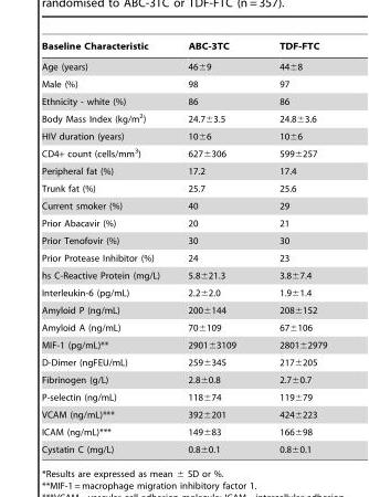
<table><thead><tr><td>Baseline Characteristic</td><td>ABC-3TC</td><td>TDF-FTC</td></tr></thead><tbody><tr><td>Age (years)</td><td>46±9</td><td>44±8</td></tr><tr><td>Male (%)</td><td>98</td><td>97</td></tr><tr><td>Ethnicity - white (%)</td><td>86</td><td>86</td></tr><tr><td>Body Mass Index (kg/m<sup>2</sup>)</td><td>24.7±3.5</td><td>24.8±3.6</td></tr><tr><td>HIV duration (years)</td><td>10±6</td><td>10±6</td></tr><tr><td>CD4+ count (cells/mm<sup>3</sup>)</td><td>627±306</td><td>599±257</td></tr><tr><td>Peripheral fat (%)</td><td>17.2</td><td>17.4</td></tr><tr><td>Trunk fat (%)</td><td>25.7</td><td>25.6</td></tr><tr><td>Current smoker (%)</td><td>40</td><td>29</td></tr><tr><td>Prior Abacavir (%)</td><td>20</td><td>21</td></tr><tr><td>Prior Tenofovir (%)</td><td>30</td><td>30</td></tr><tr><td>Prior Protease Inhibitor (%)</td><td>24</td><td>23</td></tr><tr><td>hs C-Reactive Protein (mg/L)</td><td>5.8±21.3</td><td>3.8±7.4</td></tr><tr><td>Interleukin-6 (pg/mL)</td><td>2.2±2.0</td><td>1.9±1.4</td></tr><tr><td>Amyloid P (ng/mL)</td><td>200±144</td><td>208±152</td></tr><tr><td>Amyloid A (ng/mL)</td><td>70±109</td><td>67±106</td></tr><tr><td>MIF-1 (pg/mL)**</td><td>2901±3109</td><td>2801±2979</td></tr><tr><td>D-Dimer (ngFEU/mL)</td><td>259±345</td><td>217±205</td></tr><tr><td>Fibrinogen (g/L)</td><td>2.8±0.8</td><td>2.7±0.7</td></tr><tr><td>P-selectin (ng/mL)</td><td>118±74</td><td>119±79</td></tr><tr><td>VCAM (ng/mL)***</td><td>392±201</td><td>424±223</td></tr><tr><td>ICAM (ng/mL)***</td><td>149±83</td><td>166±98</td></tr><tr><td>Cystatin C (mg/L)</td><td>0.8±0.1</td><td>0.8±0.1</td></tr></tbody></table>